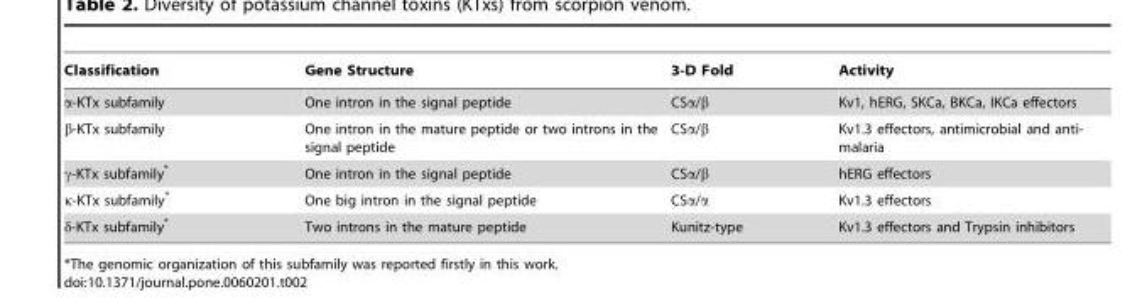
<table><thead><tr><td>Classification</td><td>Gene Structure</td><td>3-D Fold</td><td>Activity</td></tr></thead><tbody><tr><td>α-KTx subfamily</td><td>One intron in the signal peptide</td><td>CSα/β</td><td>Kv1, hERG, SKCa, BKCa, IKCa effectors</td></tr><tr><td>β-KTx subfamily</td><td>One intron in the mature peptide or two introns in the signal peptide</td><td>CSα/β</td><td>Kv1.3 effectors, antimicrobial and anti- malaria</td></tr><tr><td>γ-KTx subfamily*</td><td>One intron in the signal peptide</td><td>CSα/β</td><td>hERG effectors</td></tr><tr><td>κ-KTx subfamily*</td><td>One big intron in the signal peptide</td><td>CSα/α</td><td>Kv1.3 effectors</td></tr><tr><td>δ-KTx subfamily*</td><td>Two introns in the mature peptide</td><td>Kunitz-type</td><td>Kv1.3 effectors and Trypsin inhibitors</td></tr></tbody></table>